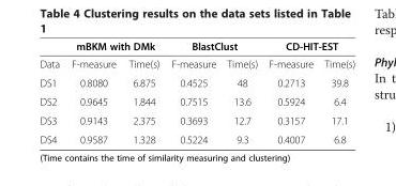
<table><thead><tr><td rowspan="2">Data</td><td colspan="2">mBKM with DMk</td><td colspan="2">BlastClust</td><td colspan="2">CD-HIT-EST</td></tr><tr><td>F-measure</td><td>Time(s)</td><td>F-measure</td><td>Time(s)</td><td>F-measure</td><td>Time(s)</td></tr></thead><tbody><tr><td>DS1</td><td>0.8080</td><td>6.875</td><td>0.4525</td><td>48</td><td>0.2713</td><td>39.8</td></tr><tr><td>DS2</td><td>0.9645</td><td>1.844</td><td>0.7515</td><td>13.6</td><td>0.5924</td><td>6.4</td></tr><tr><td>DS3</td><td>0.9143</td><td>2.375</td><td>0.3693</td><td>12.7</td><td>0.3157</td><td>17.1</td></tr><tr><td>DS4</td><td>0.9587</td><td>1.328</td><td>0.5224</td><td>9.3</td><td>0.4007</td><td>6.8</td></tr></tbody></table>